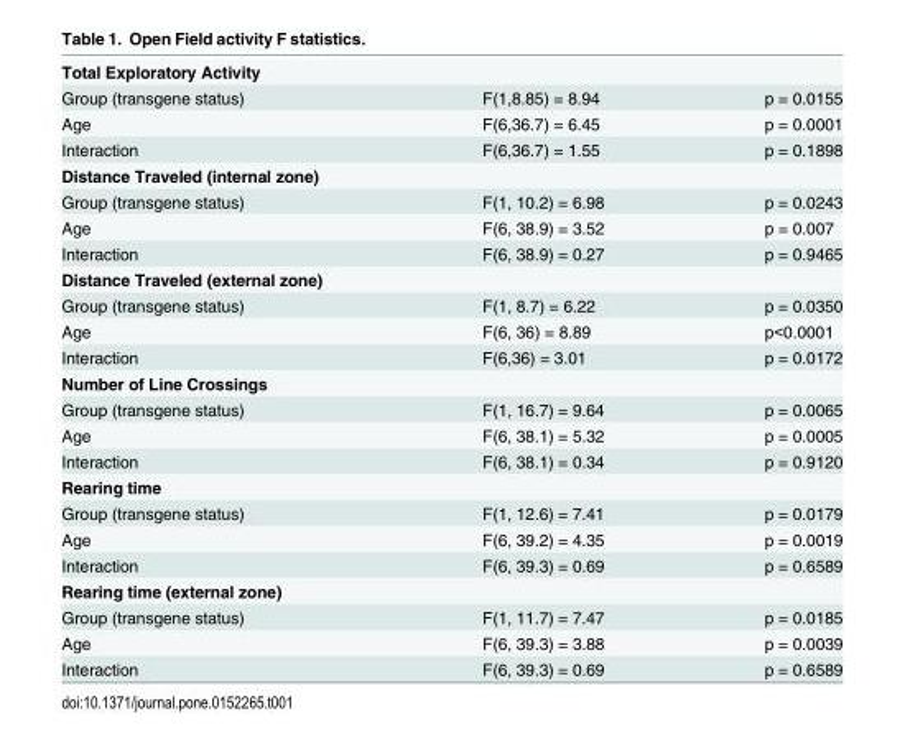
<table><tbody><tr><td colspan="3">Total Exploratory Activity</td></tr><tr><td>Group (transgene status)</td><td>F(1,8.85) = 8.94</td><td>p = 0.0155</td></tr><tr><td>Age</td><td>F(6,36.7) = 6.45</td><td>p = 0.0001</td></tr><tr><td>Interaction</td><td>F(6,36.7) = 1.55</td><td>p = 0.1898</td></tr><tr><td colspan="3">Distance Traveled (internal zone)</td></tr><tr><td>Group (transgene status)</td><td>F(1, 10.2) = 6.98</td><td>p = 0.0243</td></tr><tr><td>Age</td><td>F(6, 38.9) = 3.52</td><td>p = 0.007</td></tr><tr><td>Interaction</td><td>F(6, 38.9) = 0.27</td><td>p = 0.9465</td></tr><tr><td colspan="3">Distance Traveled (external zone)</td></tr><tr><td>Group (transgene status)</td><td>F(1, 8.7) = 6.22</td><td>p = 0.0350</td></tr><tr><td>Age</td><td>F(6, 36) = 8.89</td><td>p&lt;0.0001</td></tr><tr><td>Interaction</td><td>F(6,36) = 3.01</td><td>p = 0.0172</td></tr><tr><td colspan="3">Number of Line Crossings</td></tr><tr><td>Group (transgene status)</td><td>F(1, 16.7) = 9.64</td><td>p = 0.0065</td></tr><tr><td>Age</td><td>F(6, 38.1) = 5.32</td><td>p = 0.0005</td></tr><tr><td>Interaction</td><td>F(6, 38.1) = 0.34</td><td>p = 0.9120</td></tr><tr><td colspan="3">Rearing time</td></tr><tr><td>Group (transgene status)</td><td>F(1, 12.6) = 7.41</td><td>p = 0.0179</td></tr><tr><td>Age</td><td>F(6, 39.2) = 4.35</td><td>p = 0.0019</td></tr><tr><td>Interaction</td><td>F(6, 39.3) = 0.69</td><td>p = 0.6589</td></tr><tr><td colspan="3">Rearing time (external zone)</td></tr><tr><td>Group (transgene status)</td><td>F(1, 11.7) = 7.47</td><td>p = 0.0185</td></tr><tr><td>Age</td><td>F(6, 39.3) = 3.88</td><td>p = 0.0039</td></tr><tr><td>Interaction</td><td>F(6, 39.3) = 0.69</td><td>p = 0.6589</td></tr></tbody></table>